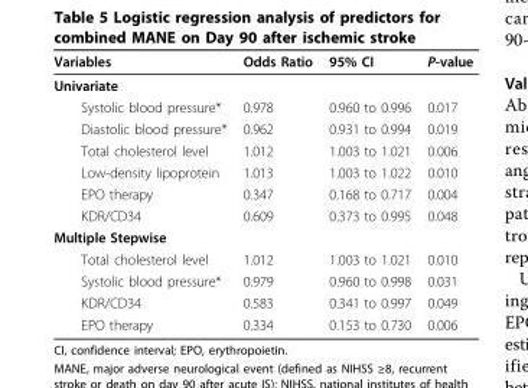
<table><thead><tr><td>Variables</td><td>Odds Ratio</td><td>95% CI</td><td>P-value</td></tr></thead><tbody><tr><td colspan="4">Univariate</td></tr><tr><td>Systolic blood pressure*</td><td>0.978</td><td>0.960 to 0.996</td><td>0.017</td></tr><tr><td>Diastolic blood pressure*</td><td>0.962</td><td>0.931 to 0.994</td><td>0.019</td></tr><tr><td>Total cholesterol level</td><td>1.012</td><td>1.003 to 1.021</td><td>0.006</td></tr><tr><td>Low-density lipoprotein</td><td>1.013</td><td>1.003 to 1.022</td><td>0.010</td></tr><tr><td>EPO therapy</td><td>0.347</td><td>0.168 to 0.717</td><td>0.004</td></tr><tr><td>KDR/CD34</td><td>0.609</td><td>0.373 to 0.995</td><td>0.048</td></tr><tr><td colspan="4">Multiple Stepwise</td></tr><tr><td>Total cholesterol level</td><td>1.012</td><td>1.003 to 1.021</td><td>0.010</td></tr><tr><td>Systolic blood pressure*</td><td>0.979</td><td>0.960 to 0.998</td><td>0.031</td></tr><tr><td>KDR/CD34</td><td>0.583</td><td>0.341 to 0.997</td><td>0.049</td></tr><tr><td>EPO therapy</td><td>0.334</td><td>0.153 to 0.730</td><td>0.006</td></tr></tbody></table>